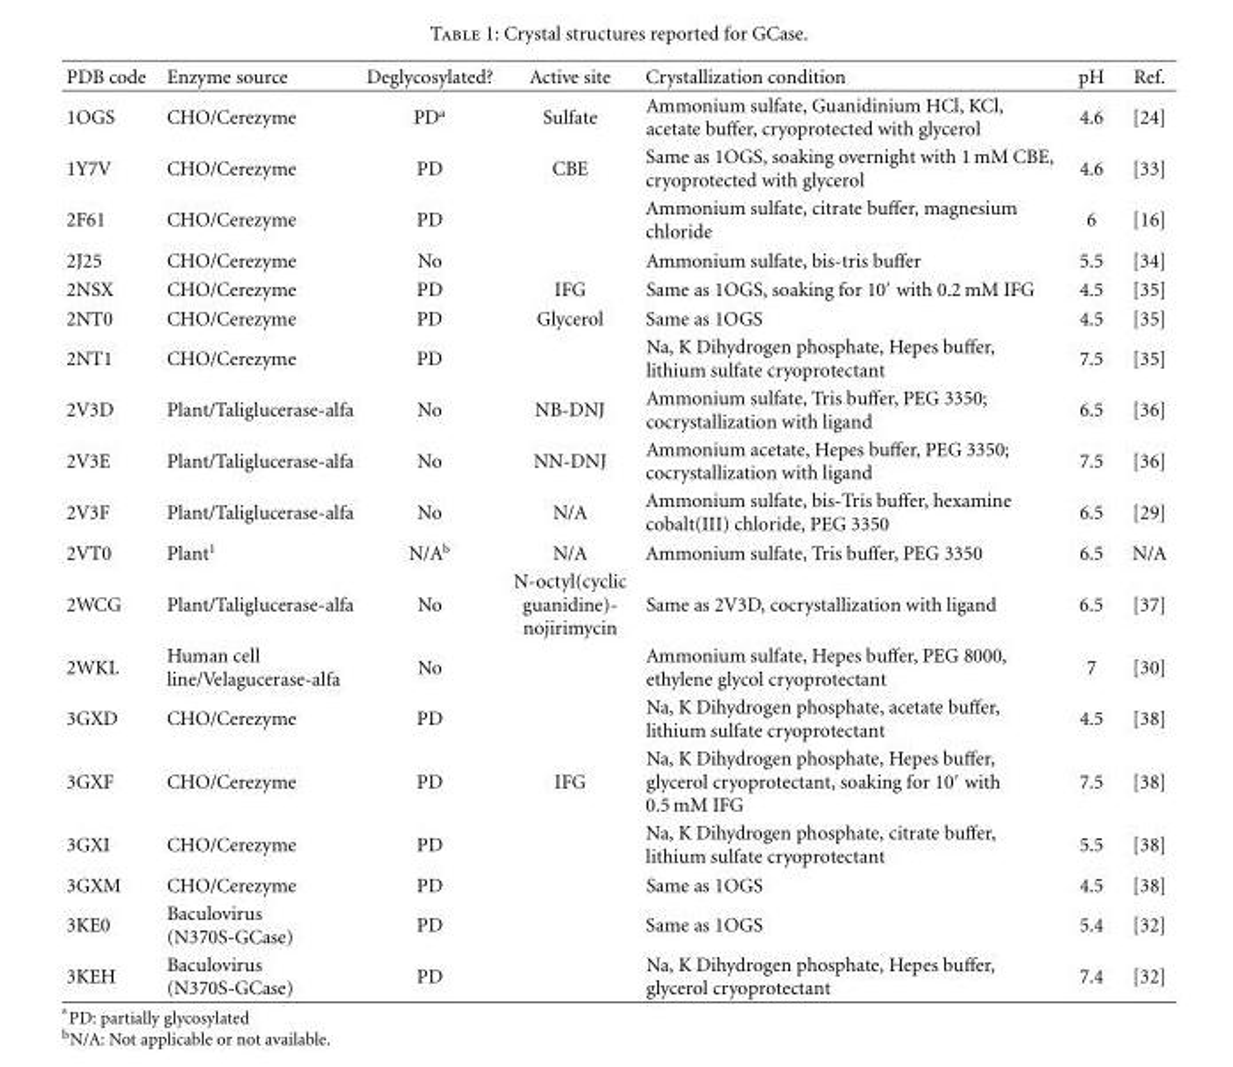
<table><thead><tr><td>PDB code</td><td>Enzyme source</td><td>Deglycosylated?</td><td>Active site</td><td>Crystallization condition</td><td>pH</td><td>Ref.</td></tr></thead><tbody><tr><td>1OGS</td><td>CHO/Cerezyme</td><td>PD<sup>a</sup></td><td>Sulfate</td><td>Ammonium sulfate, Guanidinium HCl, KCl, acetate buffer, cryoprotected with glycerol</td><td>4.6</td><td>[24]</td></tr><tr><td>1Y7V</td><td>CHO/Cerezyme</td><td>PD</td><td>CBE</td><td>Same as 1OGS, soaking overnight with 1 mM CBE, cryoprotected with glycerol</td><td>4.6</td><td>[33]</td></tr><tr><td>2F61</td><td>CHO/Cerezyme</td><td>PD</td><td></td><td>Ammonium sulfate, citrate buffer, magnesium chloride</td><td>6</td><td>[16]</td></tr><tr><td>2J25</td><td>CHO/Cerezyme</td><td>No</td><td></td><td>Ammonium sulfate, bis-tris buffer</td><td>5.5</td><td>[34]</td></tr><tr><td>2NSX</td><td>CHO/Cerezyme</td><td>PD</td><td>IFG</td><td>Same as 1OGS, soaking for 10′ with 0.2 mM IFG</td><td>4.5</td><td>[35]</td></tr><tr><td>2NT0</td><td>CHO/Cerezyme</td><td>PD</td><td>Glycerol</td><td>Same as 1OGS</td><td>4.5</td><td>[35]</td></tr><tr><td>2NT1</td><td>CHO/Cerezyme</td><td>PD</td><td></td><td>Na, K Dihydrogen phosphate, Hepes buffer, lithium sulfate cryoprotectant</td><td>7.5</td><td>[35]</td></tr><tr><td>2V3D</td><td>Plant/Taliglucerase-alfa</td><td>No</td><td>NB-DNJ</td><td>Ammonium sulfate, Tris buffer, PEG 3350; cocrystallization with ligand</td><td>6.5</td><td>[36]</td></tr><tr><td>2V3E</td><td>Plant/Taliglucerase-alfa</td><td>No</td><td>NN-DNJ</td><td>Ammonium acetate, Hepes buffer, PEG 3350; cocrystallization with ligand</td><td>7.5</td><td>[36]</td></tr><tr><td>2V3F</td><td>Plant/Taliglucerase-alfa</td><td>No</td><td>N/A</td><td>Ammonium sulfate, bis-Tris buffer, hexamine cobalt(III) chloride, PEG 3350</td><td>6.5</td><td>[29]</td></tr><tr><td>2VT0</td><td>Plant<sup>1</sup></td><td>N/A<sup>b</sup></td><td>N/A</td><td>Ammonium sulfate, Tris buffer, PEG 3350</td><td>6.5</td><td>N/A</td></tr><tr><td>2WCG</td><td>Plant/Taliglucerase-alfa</td><td>No</td><td>N-octyl(cyclic guanidine)- nojirimycin</td><td>Same as 2V3D, cocrystallization with ligand</td><td>6.5</td><td>[37]</td></tr><tr><td>2WKL</td><td>Human cell line/Velagucerase-alfa</td><td>No</td><td></td><td>Ammonium sulfate, Hepes buffer, PEG 8000, ethylene glycol cryoprotectant</td><td>7</td><td>[30]</td></tr><tr><td>3GXD</td><td>CHO/Cerezyme</td><td>PD</td><td></td><td>Na, K Dihydrogen phosphate, acetate buffer, lithium sulfate cryoprotectant</td><td>4.5</td><td>[38]</td></tr><tr><td>3GXF</td><td>CHO/Cerezyme</td><td>PD</td><td>IFG</td><td>Na, K Dihydrogen phosphate, Hepes buffer, glycerol cryoprotectant, soaking for 10′ with 0.5 mM IFG</td><td>7.5</td><td>[38]</td></tr><tr><td>3GXI</td><td>CHO/Cerezyme</td><td>PD</td><td></td><td>Na, K Dihydrogen phosphate, citrate buffer, lithium sulfate cryoprotectant</td><td>5.5</td><td>[38]</td></tr><tr><td>3GXM</td><td>CHO/Cerezyme</td><td>PD</td><td></td><td>Same as 1OGS</td><td>4.5</td><td>[38]</td></tr><tr><td>3KE0</td><td>Baculovirus (N370S-GCase)</td><td>PD</td><td></td><td>Same as 1OGS</td><td>5.4</td><td>[32]</td></tr><tr><td>3KEH</td><td>Baculovirus (N370S-GCase)</td><td>PD</td><td></td><td>Na, K Dihydrogen phosphate, Hepes buffer, glycerol cryoprotectant</td><td>7.4</td><td>[32]</td></tr></tbody></table>